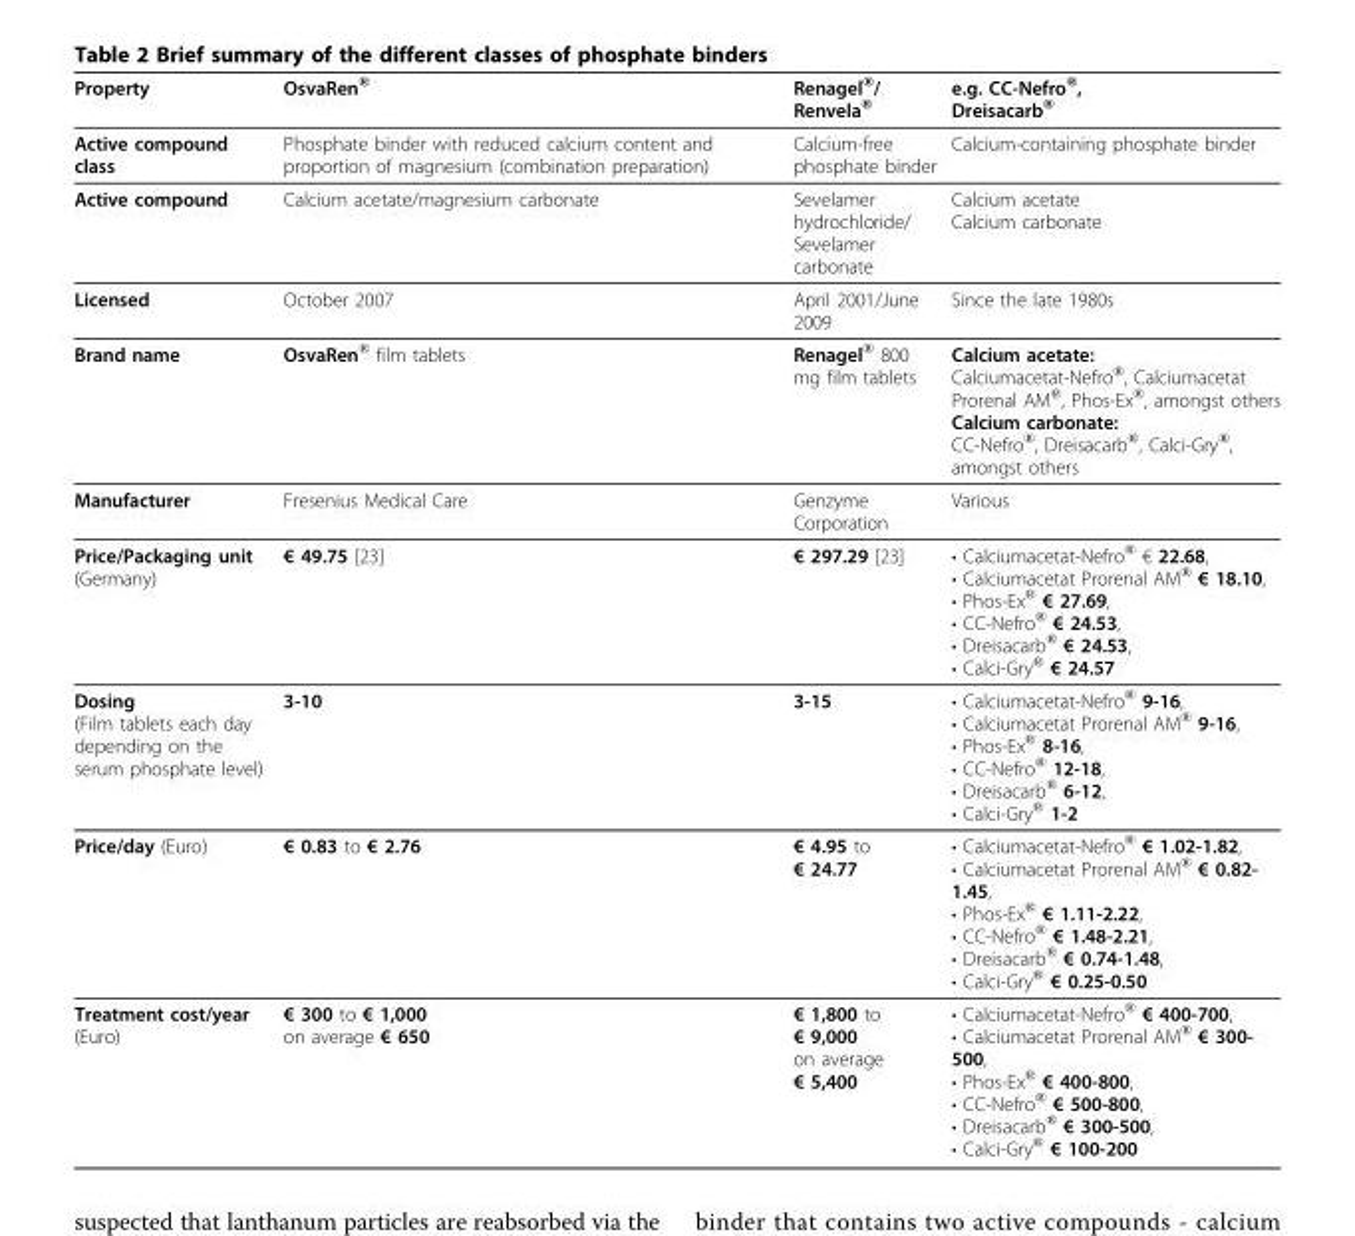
<table><thead><tr><td>Property</td><td>OsvaRen<sup>®</sup></td><td>Renagel<sup>®</sup>/ Renvela<sup>®</sup></td><td>e.g. CC-Nefro<sup>®</sup>, Dreisacarb<sup>®</sup></td></tr></thead><tbody><tr><td>Active compound class</td><td>Phosphate binder with reduced calcium content and proportion of magnesium (combination preparation)</td><td>Calcium-free phosphate binder</td><td>Calcium-containing phosphate binder</td></tr><tr><td>Active compound</td><td>Calcium acetate/magnesium carbonate</td><td>Sevelamer hydrochloride/ Sevelamer carbonate</td><td>Calcium acetate Calcium carbonate</td></tr><tr><td>Licensed</td><td>October 2007</td><td>April 2001/June 2009</td><td>Since the late 1980s</td></tr><tr><td>Brand name</td><td>OsvaRen<sup>®</sup> film tablets</td><td>Renagel<sup>®</sup> 800 mg film tablets</td><td>Calcium acetate: Calciumacetat-Nefro<sup>®</sup>, Calciumacetat Prorenal AM<sup>®</sup>, Phos-Ex<sup>®</sup>, amongst others Calcium carbonate: CC-Nefro<sup>®</sup>, Dreisacarb<sup>®</sup>, Calci-Gry<sup>®</sup>, amongst others</td></tr><tr><td>Manufacturer</td><td>Fresenius Medical Care</td><td>Genzyme Corporation</td><td>Various</td></tr><tr><td>Price/Packaging unit (Germany)</td><td>€ 49.75 [23]</td><td>€ 297.29 [23]</td><td>• Calciumacetat-Nefro<sup>®</sup> € 22.68, • Calciumacetat Prorenal AM<sup>®</sup> € 18.10, • Phos-Ex<sup>®</sup> € 27.69, • CC-Nefro<sup>®</sup> € 24.53, • Dreisacarb<sup>®</sup> € 24.53, • Calci-Gry<sup>®</sup> € 24.57</td></tr><tr><td>Dosing (Film tablets each day depending on the serum phosphate level)</td><td>3-10</td><td>3-15</td><td>• Calciumacetat-Nefro<sup>®</sup> 9-16, • Calciumacetat Prorenal AM<sup>®</sup> 9-16, • Phos-Ex<sup>®</sup> 8-16, • CC-Nefro<sup>®</sup> 12-18, • Dreisacarb<sup>®</sup> 6-12, • Calci-Gry<sup>®</sup> 1-2</td></tr><tr><td>Price/day (Euro)</td><td>€ 0.83 to € 2.76</td><td>€ 4.95 to € 24.77</td><td>• Calciumacetat-Nefro<sup>®</sup> € 1.02-1.82, • Calciumacetat Prorenal AM<sup>®</sup> € 0.82- 1.45, • Phos-Ex<sup>®</sup> € 1.11-2.22, • CC-Nefro<sup>®</sup> € 1.48-2.21, • Dreisacarb<sup>®</sup> € 0.74-1.48, • Calci-Gry<sup>®</sup> € 0.25-0.50</td></tr><tr><td>Treatment cost/year (Euro)</td><td>€ 300 to € 1,000 on average € 650</td><td>€ 1,800 to € 9,000 on average € 5,400</td><td>• Calciumacetat-Nefro<sup>®</sup> € 400-700, • Calciumacetat Prorenal AM<sup>®</sup> € 300- 500, • Phos-Ex<sup>®</sup> € 400-800, • CC-Nefro<sup>®</sup> € 500-800, • Dreisacarb<sup>®</sup> € 300-500, • Calci-Gry<sup>®</sup> € 100-200</td></tr></tbody></table>